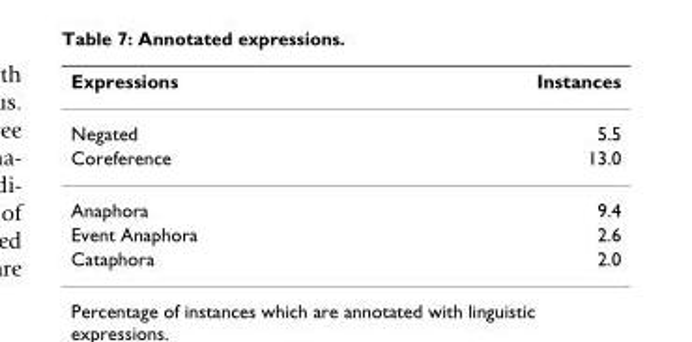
<table><thead><tr><td>Expressions</td><td>Instances</td></tr></thead><tbody><tr><td>Negated</td><td>5.5</td></tr><tr><td>Coreference</td><td>13.0</td></tr><tr><td>Anaphora</td><td>9.4</td></tr><tr><td>Event Anaphora</td><td>2.6</td></tr><tr><td>Cataphora</td><td>2.0</td></tr></tbody></table>